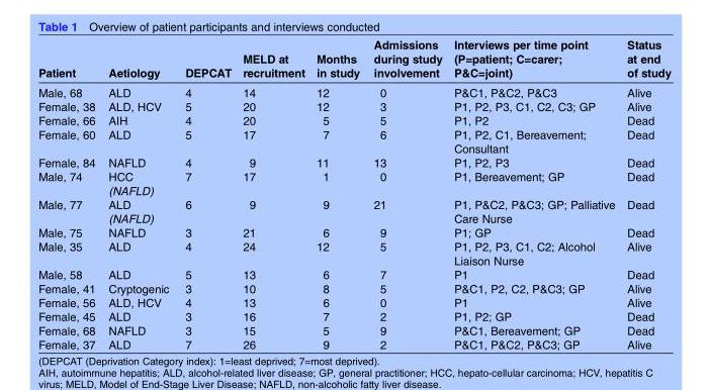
<table><thead><tr><td>Patient</td><td>Aetiology</td><td>DEPCAT</td><td>MELD at recruitment</td><td>Months in study</td><td>Admissions during study involvement</td><td>Interviews per time point (P=patient; C=carer; P&amp;C=joint)</td><td>Status at end of study</td></tr></thead><tbody><tr><td>Male, 68</td><td>ALD</td><td>4</td><td>14</td><td>12</td><td>0</td><td>P&amp;C1, P&amp;C2, P&amp;C3</td><td>Alive</td></tr><tr><td>Female, 38</td><td>ALD, HCV</td><td>5</td><td>20</td><td>12</td><td>3</td><td>P1, P2, P3, C1, C2, C3; GP</td><td>Alive</td></tr><tr><td>Female, 66</td><td>AIH</td><td>4</td><td>20</td><td>5</td><td>5</td><td>P1, P2</td><td>Dead</td></tr><tr><td>Female, 60</td><td>ALD</td><td>5</td><td>17</td><td>7</td><td>6</td><td>P1, P2, C1, Bereavement; Consultant</td><td>Dead</td></tr><tr><td>Female, 84</td><td>NAFLD</td><td>4</td><td>9</td><td>11</td><td>13</td><td>P1, P2, P3</td><td>Dead</td></tr><tr><td>Male, 74</td><td>HCC (NAFLD)</td><td>7</td><td>17</td><td>1</td><td>0</td><td>P1, Bereavement; GP</td><td>Dead</td></tr><tr><td>Male, 77</td><td>ALD (NAFLD)</td><td>6</td><td>9</td><td>9</td><td>21</td><td>P1, P&amp;C2, P&amp;C3; GP; Palliative Care Nurse</td><td>Dead</td></tr><tr><td>Male, 75</td><td>NAFLD</td><td>3</td><td>21</td><td>6</td><td>9</td><td>P1; GP</td><td>Dead</td></tr><tr><td>Male, 35</td><td>ALD</td><td>4</td><td>24</td><td>12</td><td>5</td><td>P1, P2, P3, C1, C2; Alcohol Liaison Nurse</td><td>Alive</td></tr><tr><td>Male, 58</td><td>ALD</td><td>5</td><td>13</td><td>6</td><td>7</td><td>P1</td><td>Dead</td></tr><tr><td>Female, 41</td><td>Cryptogenic</td><td>3</td><td>10</td><td>8</td><td>5</td><td>P&amp;C1, P2, C2, P&amp;C3; GP</td><td>Alive</td></tr><tr><td>Female, 56</td><td>ALD, HCV</td><td>4</td><td>13</td><td>6</td><td>0</td><td>P1</td><td>Alive</td></tr><tr><td>Female, 45</td><td>ALD</td><td>3</td><td>16</td><td>7</td><td>2</td><td>P1, P2; GP</td><td>Dead</td></tr><tr><td>Female, 68</td><td>NAFLD</td><td>3</td><td>15</td><td>5</td><td>9</td><td>P&amp;C1, Bereavement; GP</td><td>Dead</td></tr><tr><td>Female, 37</td><td>ALD</td><td>7</td><td>26</td><td>9</td><td>2</td><td>P&amp;C1, P&amp;C2, P&amp;C3; GP</td><td>Alive</td></tr></tbody></table>